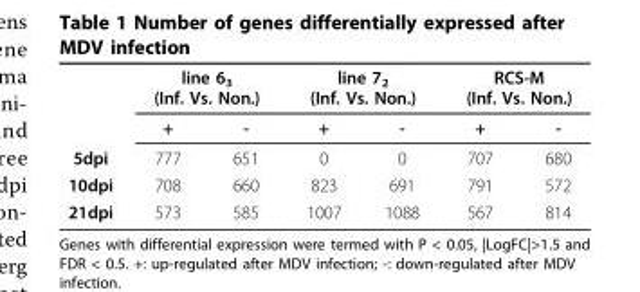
<table><thead><tr><td rowspan="2"></td><td colspan="2">line 6<sub>3</sub> (Inf. Vs. Non.)</td><td colspan="2">line 7<sub>2</sub> (Inf. Vs. Non.)</td><td colspan="2">RCS-M (Inf. Vs. Non.)</td></tr><tr><td>+</td><td>-</td><td>+</td><td>-</td><td>+</td><td>-</td></tr></thead><tbody><tr><td>5dpi</td><td>777</td><td>651</td><td>0</td><td>0</td><td>707</td><td>680</td></tr><tr><td>10dpi</td><td>708</td><td>660</td><td>823</td><td>691</td><td>791</td><td>572</td></tr><tr><td>21dpi</td><td>573</td><td>585</td><td>1007</td><td>1088</td><td>567</td><td>814</td></tr></tbody></table>